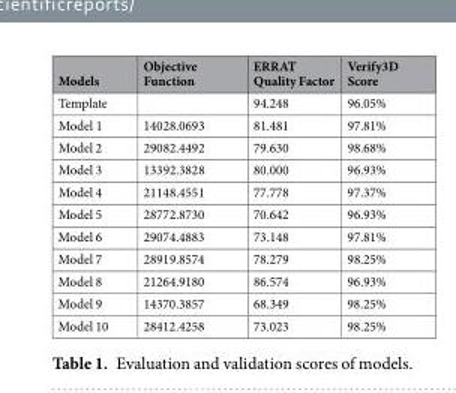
<table><thead><tr><td>Models</td><td>Objective Function</td><td>ERRAT Quality Factor</td><td>Verify3D Score</td></tr></thead><tbody><tr><td>Template</td><td></td><td>94.248</td><td>96.05%</td></tr><tr><td>Model 1</td><td>14028.0693</td><td>81.481</td><td>97.81%</td></tr><tr><td>Model 2</td><td>29082.4492</td><td>79.630</td><td>98.68%</td></tr><tr><td>Model 3</td><td>13392.3828</td><td>80.000</td><td>96.93%</td></tr><tr><td>Model 4</td><td>21148.4551</td><td>77.778</td><td>97.37%</td></tr><tr><td>Model 5</td><td>28772.8730</td><td>70.642</td><td>96.93%</td></tr><tr><td>Model 6</td><td>29074.4883</td><td>73.148</td><td>97.81%</td></tr><tr><td>Model 7</td><td>28919.8574</td><td>78.279</td><td>98.25%</td></tr><tr><td>Model 8</td><td>21264.9180</td><td>86.574</td><td>96.93%</td></tr><tr><td>Model 9</td><td>14370.3857</td><td>68.349</td><td>98.25%</td></tr><tr><td>Model 10</td><td>28412.4258</td><td>73.023</td><td>98.25%</td></tr></tbody></table>